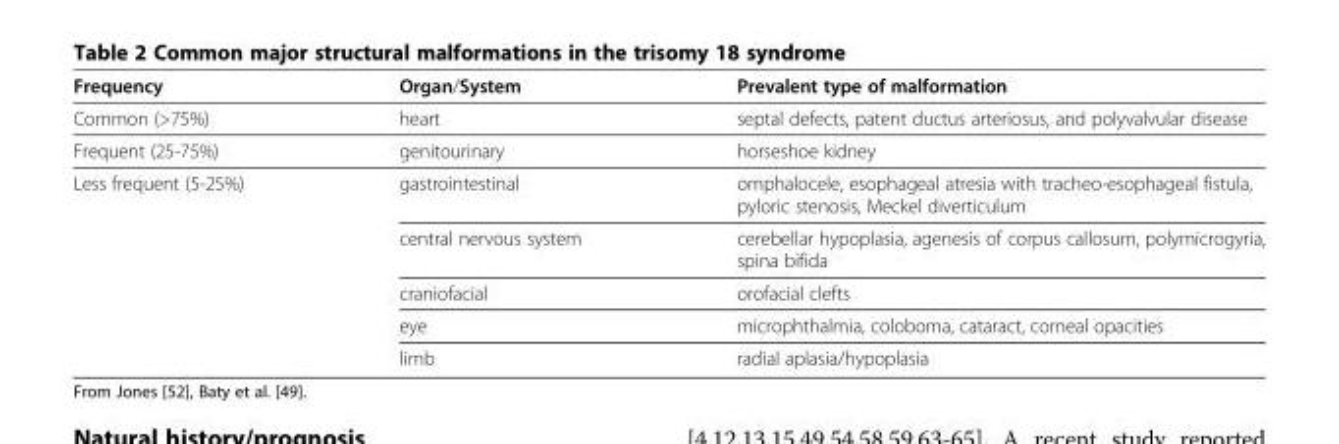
<table><thead><tr><td>Frequency</td><td>Organ/System</td><td>Prevalent type of malformation</td></tr></thead><tbody><tr><td>Common (&gt;75%)</td><td>heart</td><td>septal defects, patent ductus arteriosus, and polyvalvular disease</td></tr><tr><td>Frequent (25-75%)</td><td>genitourinary</td><td>horseshoe kidney</td></tr><tr><td rowspan="5">Less frequent (5-25%)</td><td>gastrointestinal</td><td>omphalocele, esophageal atresia with tracheo-esophageal fistula, pyloric stenosis, Meckel diverticulum</td></tr><tr><td>central nervous system</td><td>cerebellar hypoplasia, agenesis of corpus callosum, polymicrogyria, spina bifida</td></tr><tr><td>craniofacial</td><td>orofacial clefts</td></tr><tr><td>eye</td><td>microphthalmia, coloboma, cataract, corneal opacities</td></tr><tr><td>limb</td><td>radial aplasia/hypoplasia</td></tr></tbody></table>